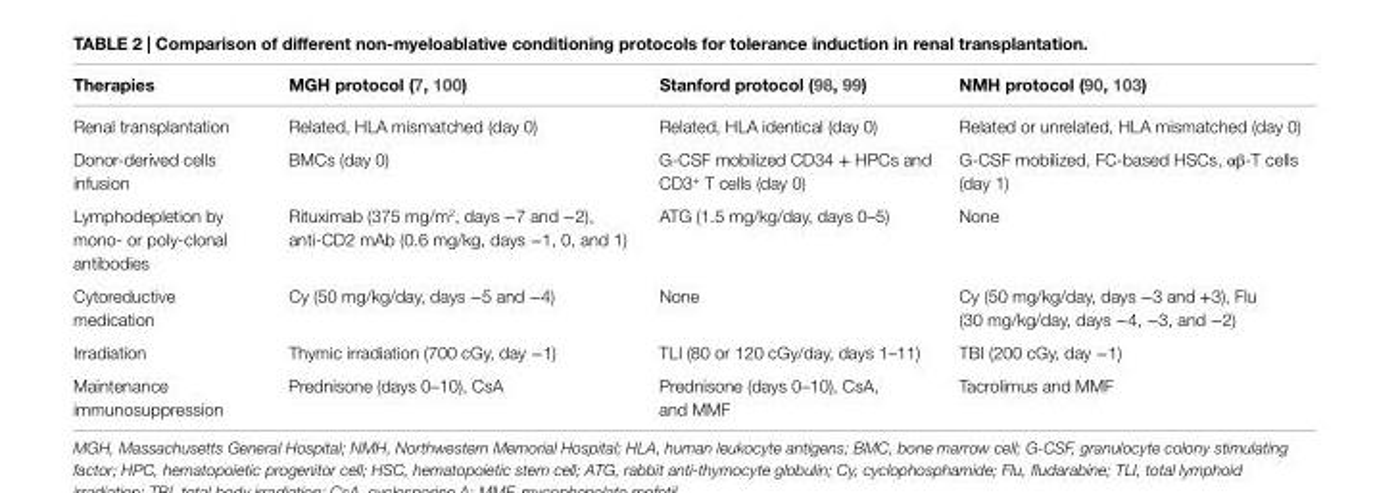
<table><thead><tr><td>Therapies</td><td>MGH protocol (7, 100)</td><td>Stanford protocol (98, 99)</td><td>NMH protocol (90, 103)</td></tr></thead><tbody><tr><td>Renal transplantation</td><td>Related, HLA mismatched (day 0)</td><td>Related, HLA identical (day 0)</td><td>Related or unrelated, HLA mismatched (day 0)</td></tr><tr><td>Donor-derived cells infusion</td><td>BMCs (day 0)</td><td>G-CSF mobilized CD34 + HPCs and CD3<sup>+</sup> T cells (day 0)</td><td>G-CSF mobilized, FC-based HSCs, αβ-T cells (day 1)</td></tr><tr><td>Lymphodepletion by mono- or poly-clonal antibodies</td><td>Rituximab (375 mg/m<sup>2</sup>, days −7 and −2), anti-CD2 mAb (0.6 mg/kg, days −1, 0, and 1)</td><td>ATG (1.5 mg/kg/day, days 0–5)</td><td>None</td></tr><tr><td>Cytoreductive medication</td><td>Cy (50 mg/kg/day, days −5 and −4)</td><td>None</td><td>Cy (50 mg/kg/day, days −3 and +3), Flu (30 mg/kg/day, days −4, −3, and −2)</td></tr><tr><td>Irradiation</td><td>Thymic irradiation (700 cGy, day −1)</td><td>TLI (80 or 120 cGy/day, days 1–11)</td><td>TBI (200 cGy, day −1)</td></tr><tr><td>Maintenance immunosuppression</td><td>Prednisone (days 0–10), CsA</td><td>Prednisone (days 0–10), CsA, and MMF</td><td>Tacrolimus and MMF</td></tr></tbody></table>